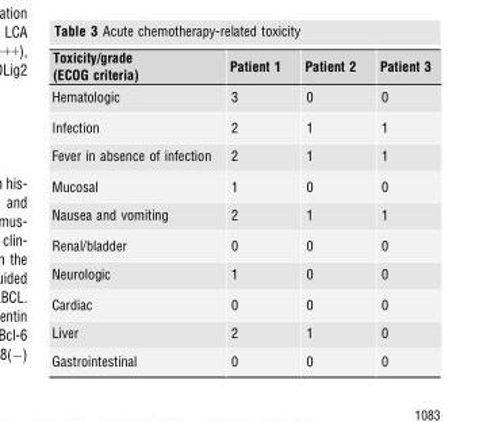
<table><thead><tr><td>Toxicity/grade (ECOG criteria)</td><td>Patient 1</td><td>Patient 2</td><td>Patient 3</td></tr></thead><tbody><tr><td>Hematologic</td><td>3</td><td>0</td><td>0</td></tr><tr><td>Infection</td><td>2</td><td>1</td><td>1</td></tr><tr><td>Fever in absence of infection</td><td>2</td><td>1</td><td>1</td></tr><tr><td>Mucosal</td><td>1</td><td>0</td><td>0</td></tr><tr><td>Nausea and vomiting</td><td>2</td><td>1</td><td>1</td></tr><tr><td>Renal/bladder</td><td>0</td><td>0</td><td>0</td></tr><tr><td>Neurologic</td><td>1</td><td>0</td><td>0</td></tr><tr><td>Cardiac</td><td>0</td><td>0</td><td>0</td></tr><tr><td>Liver</td><td>2</td><td>1</td><td>0</td></tr><tr><td>Gastrointestinal</td><td>0</td><td>0</td><td>0</td></tr></tbody></table>